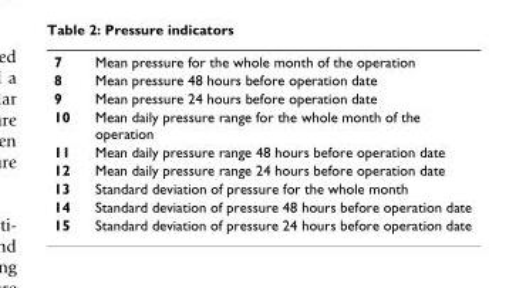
<table><tbody><tr><td>7</td><td>Mean pressure for the whole month of the operation</td></tr><tr><td>8</td><td>Mean pressure 48 hours before operation date</td></tr><tr><td>9</td><td>Mean pressure 24 hours before operation date</td></tr><tr><td>10</td><td>Mean daily pressure range for the whole month of the operation</td></tr><tr><td>11</td><td>Mean daily pressure range 48 hours before operation date</td></tr><tr><td>12</td><td>Mean daily pressure range 24 hours before operation date</td></tr><tr><td>13</td><td>Standard deviation of pressure for the whole month</td></tr><tr><td>14</td><td>Standard deviation of pressure 48 hours before operation date</td></tr><tr><td>15</td><td>Standard deviation of pressure 24 hours before operation date</td></tr></tbody></table>